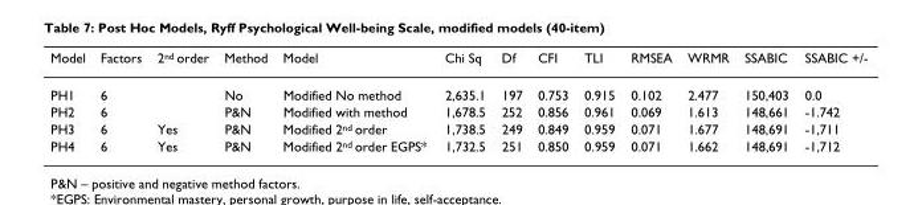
<table><thead><tr><td>Model</td><td>Factors</td><td>2<sup>nd</sup> order</td><td>Method</td><td>Model</td><td>Chi Sq</td><td>Df</td><td>CFI</td><td>TLI</td><td>RMSEA</td><td>WRMR</td><td>SSABIC</td><td>SSABIC +/-</td></tr></thead><tbody><tr><td>PH1</td><td>6</td><td></td><td>No</td><td>Modified No method</td><td>2,635.1</td><td>197</td><td>0.753</td><td>0.915</td><td>0.102</td><td>2.477</td><td>150,403</td><td>0.0</td></tr><tr><td>PH2</td><td>6</td><td></td><td>P&amp;N</td><td>Modified with method</td><td>1,678.5</td><td>252</td><td>0.856</td><td>0.961</td><td>0.069</td><td>1.613</td><td>148,661</td><td>-1.742</td></tr><tr><td>PH3</td><td>6</td><td>Yes</td><td>P&amp;N</td><td>Modified 2<sup>nd</sup> order</td><td>1,738.5</td><td>249</td><td>0.849</td><td>0.959</td><td>0.071</td><td>1.677</td><td>148,691</td><td>-1,711</td></tr><tr><td>PH4</td><td>6</td><td>Yes</td><td>P&amp;N</td><td>Modified 2<sup>nd</sup> order EGPS*</td><td>1,732.5</td><td>251</td><td>0.850</td><td>0.959</td><td>0.071</td><td>1.662</td><td>148,691</td><td>-1,712</td></tr></tbody></table>